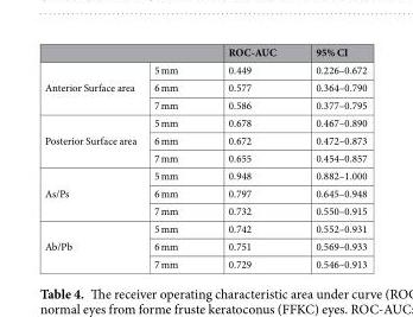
<table><thead><tr><td></td><td></td><td>ROC-AUC</td><td>95% CI</td></tr></thead><tbody><tr><td rowspan="3">Anterior Surface area</td><td>5 mm</td><td>0.449</td><td>0.226–0.672</td></tr><tr><td>6 mm</td><td>0.577</td><td>0.364–0.790</td></tr><tr><td>7 mm</td><td>0.586</td><td>0.377–0.795</td></tr><tr><td rowspan="3">Posterior Surface area</td><td>5 mm</td><td>0.678</td><td>0.467–0.890</td></tr><tr><td>6 mm</td><td>0.672</td><td>0.472–0.873</td></tr><tr><td>7 mm</td><td>0.655</td><td>0.454–0.857</td></tr><tr><td rowspan="3">As/Ps</td><td>5 mm</td><td>0.948</td><td>0.882–1.000</td></tr><tr><td>6 mm</td><td>0.797</td><td>0.645–0.948</td></tr><tr><td>7 mm</td><td>0.732</td><td>0.550–0.915</td></tr><tr><td rowspan="3">Ab/Pb</td><td>5 mm</td><td>0.742</td><td>0.552–0.931</td></tr><tr><td>6 mm</td><td>0.751</td><td>0.569–0.933</td></tr><tr><td>7 mm</td><td>0.729</td><td>0.546–0.913</td></tr></tbody></table>